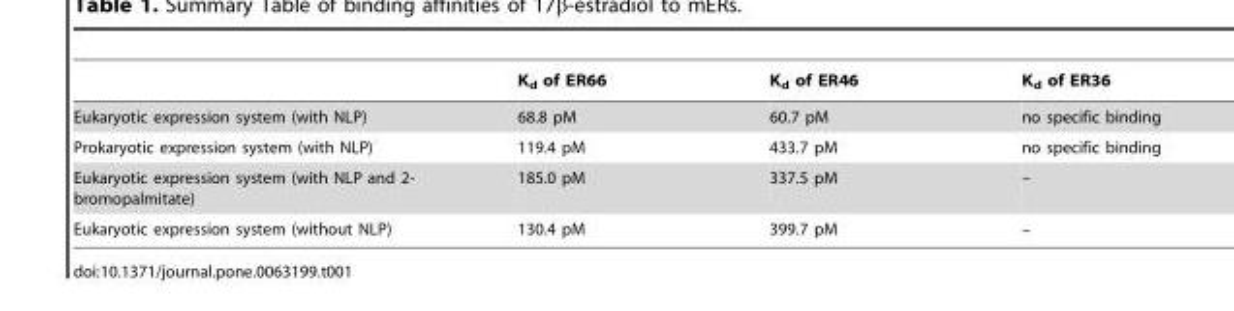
<table><thead><tr><td></td><td>K<sub>d</sub> of ER66</td><td>K<sub>d</sub> of ER46</td><td>K<sub>d</sub> of ER36</td></tr></thead><tbody><tr><td>Eukaryotic expression system (with NLP)</td><td>68.8 pM</td><td>60.7 pM</td><td>no specific binding</td></tr><tr><td>Prokaryotic expression system (with NLP)</td><td>119.4 pM</td><td>433.7 pM</td><td>no specific binding</td></tr><tr><td>Eukaryotic expression system (with NLP and 2- bromopalmitate)</td><td>185.0 pM</td><td>337.5 pM</td><td>–</td></tr><tr><td>Eukaryotic expression system (without NLP)</td><td>130.4 pM</td><td>399.7 pM</td><td>–</td></tr></tbody></table>